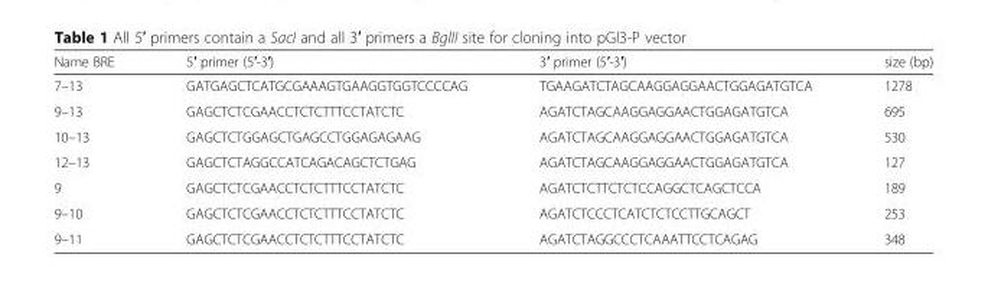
<table><thead><tr><td>Name BRE</td><td>5′ primer (5′-3′)</td><td>3′ primer (5′-3′)</td><td>size (bp)</td></tr></thead><tbody><tr><td>7–13</td><td>GATGAGCTCATGCGAAAGTGAAGGTGGTCCCCAG</td><td>TGAAGATCTAGCAAGGAGGAACTGGAGATGTCA</td><td>1278</td></tr><tr><td>9–13</td><td>GAGCTCTCGAACCTCTCTTTCCTATCTC</td><td>AGATCTAGCAAGGAGGAACTGGAGATGTCA</td><td>695</td></tr><tr><td>10–13</td><td>GAGCTCTGGAGCTGAGCCTGGAGAGAAG</td><td>AGATCTAGCAAGGAGGAACTGGAGATGTCA</td><td>530</td></tr><tr><td>12–13</td><td>GAGCTCTAGGCCATCAGACAGCTCTGAG</td><td>AGATCTAGCAAGGAGGAACTGGAGATGTCA</td><td>127</td></tr><tr><td>9</td><td>GAGCTCTCGAACCTCTCTTTCCTATCTC</td><td>AGATCTCTTCTCTCCAGGCTCAGCTCCA</td><td>189</td></tr><tr><td>9–10</td><td>GAGCTCTCGAACCTCTCTTTCCTATCTC</td><td>AGATCTCCCTCATCTCTCCTTGCAGCT</td><td>253</td></tr><tr><td>9–11</td><td>GAGCTCTCGAACCTCTCTTTCCTATCTC</td><td>AGATCTAGGCCCTCAAATTCCTCAGAG</td><td>348</td></tr></tbody></table>